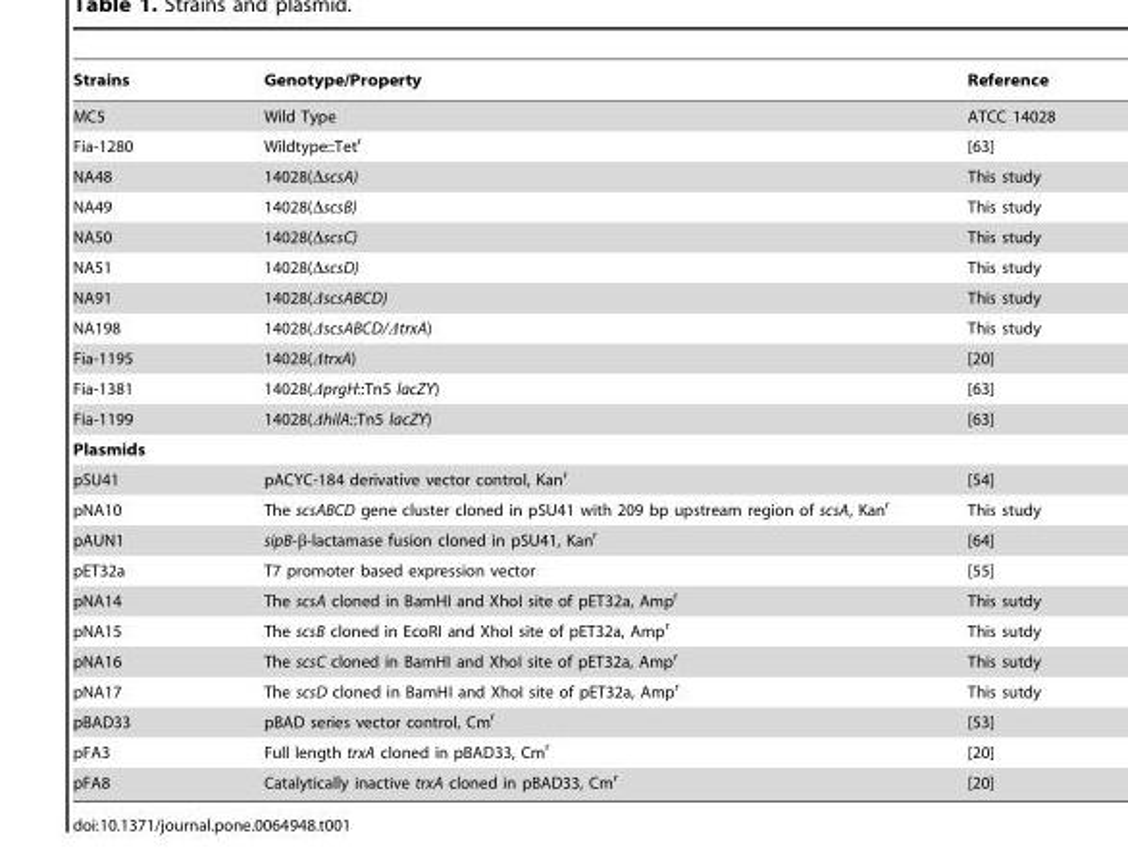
<table><thead><tr><td>Strains</td><td>Genotype/Property</td><td>Reference</td></tr></thead><tbody><tr><td>MC5</td><td>Wild Type</td><td>ATCC 14028</td></tr><tr><td>Fia-1280</td><td>Wildtype::Tet<sup>r</sup></td><td>[63]</td></tr><tr><td>NA48</td><td>14028(ΔscsA)</td><td>This study</td></tr><tr><td>NA49</td><td>14028(ΔscsB)</td><td>This study</td></tr><tr><td>NA50</td><td>14028(ΔscsC)</td><td>This study</td></tr><tr><td>NA51</td><td>14028(ΔscsD)</td><td>This study</td></tr><tr><td>NA91</td><td>14028(ΔscsABCD)</td><td>This study</td></tr><tr><td>NA198</td><td>14028(ΔscsABCD/ΔtrxA)</td><td>This study</td></tr><tr><td>Fia-1195</td><td>14028(ΔtrxA)</td><td>[20]</td></tr><tr><td>Fia-1381</td><td>14028(ΔprgH::Tn5 lacZY)</td><td>[63]</td></tr><tr><td>Fia-1199</td><td>14028(ΔhilA::Tn5 lacZY)</td><td>[63]</td></tr><tr><td colspan="3">Plasmids</td></tr><tr><td>pSU41</td><td>pACYC-184 derivative vector control, Kan<sup>r</sup></td><td>[54]</td></tr><tr><td>pNA10</td><td>The scsABCD gene cluster cloned in pSU41 with 209 bp upstream region of scsA, Kan<sup>r</sup></td><td>This study</td></tr><tr><td>pAUN1</td><td>sipB-β-lactamase fusion cloned in pSU41, Kan<sup>r</sup></td><td>[64]</td></tr><tr><td>pET32a</td><td>T7 promoter based expression vector</td><td>[55]</td></tr><tr><td>pNA14</td><td>The scsA cloned in BamHI and XhoI site of pET32a, Amp<sup>r</sup></td><td>This sutdy</td></tr><tr><td>pNA15</td><td>The scsB cloned in EcoRI and XhoI site of pET32a, Amp<sup>r</sup></td><td>This sutdy</td></tr><tr><td>pNA16</td><td>The scsC cloned in BamHI and XhoI site of pET32a, Amp<sup>r</sup></td><td>This sutdy</td></tr><tr><td>pNA17</td><td>The scsD cloned in BamHI and XhoI site of pET32a, Amp<sup>r</sup></td><td>This sutdy</td></tr><tr><td>pBAD33</td><td>pBAD series vector control, Cm<sup>r</sup></td><td>[53]</td></tr><tr><td>pFA3</td><td>Full length trxA cloned in pBAD33, Cm<sup>r</sup></td><td>[20]</td></tr><tr><td>pFA8</td><td>Catalytically inactive trxA cloned in pBAD33, Cm<sup>r</sup></td><td>[20]</td></tr></tbody></table>